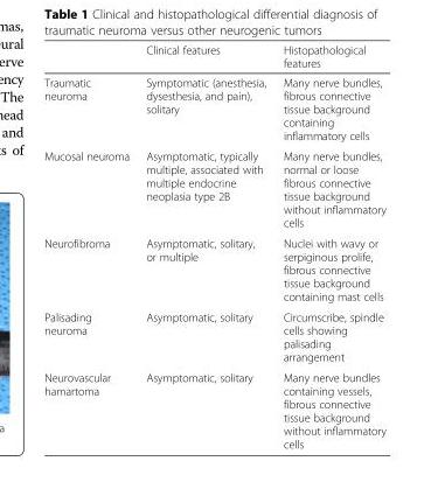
<table><thead><tr><td></td><td>Clinical features</td><td>Histopathological features</td></tr></thead><tbody><tr><td>Traumatic neuroma</td><td>Symptomatic (anesthesia, dysesthesia, and pain), solitary</td><td>Many nerve bundles, fibrous connective tissue background containing inflammatory cells</td></tr><tr><td>Mucosal neuroma</td><td>Asymptomatic, typically multiple, associated with multiple endocrine neoplasia type 2B</td><td>Many nerve bundles, normal or loose fibrous connective tissue background without inflammatory cells</td></tr><tr><td>Neurofibroma</td><td>Asymptomatic, solitary, or multiple</td><td>Nuclei with wavy or serpiginous prolife, fibrous connective tissue background containing mast cells</td></tr><tr><td>Palisading neuroma</td><td>Asymptomatic, solitary</td><td>Circumscribe, spindle cells showing palisading arrangement</td></tr><tr><td>Neurovascular hamartoma</td><td>Asymptomatic, solitary</td><td>Many nerve bundles containing vessels, fibrous connective tissue background without inflammatory cells</td></tr></tbody></table>